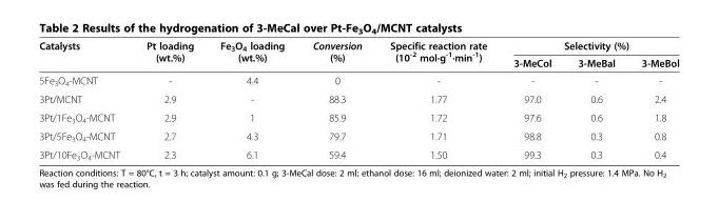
<table><thead><tr><td rowspan="2">Catalysts</td><td rowspan="2">Pt loading (wt.%)</td><td rowspan="2">Fe<sub>3</sub>O<sub>4</sub> loading (wt.%)</td><td rowspan="2">Conversion (%)</td><td rowspan="2">Specific reaction rate (10<sup>-2</sup> mol·g<sup>-1</sup>·min<sup>-1</sup>)</td><td colspan="3">Selectivity (%)</td></tr><tr><td>3-MeCol</td><td>3-MeBal</td><td>3-MeBol</td></tr></thead><tbody><tr><td>5Fe<sub>3</sub>O<sub>4</sub>-MCNT</td><td>-</td><td>4.4</td><td>0</td><td>-</td><td>-</td><td>-</td><td>-</td></tr><tr><td>3Pt/MCNT</td><td>2.9</td><td>-</td><td>88.3</td><td>1.77</td><td>97.0</td><td>0.6</td><td>2.4</td></tr><tr><td>3Pt/1Fe<sub>3</sub>O<sub>4</sub>-MCNT</td><td>2.9</td><td>1</td><td>85.9</td><td>1.72</td><td>97.6</td><td>0.6</td><td>1.8</td></tr><tr><td>3Pt/5Fe<sub>3</sub>O<sub>4</sub>-MCNT</td><td>2.7</td><td>4.3</td><td>79.7</td><td>1.71</td><td>98.8</td><td>0.3</td><td>0.8</td></tr><tr><td>3Pt/10Fe<sub>3</sub>O<sub>4</sub>-MCNT</td><td>2.3</td><td>6.1</td><td>59.4</td><td>1.50</td><td>99.3</td><td>0.3</td><td>0.4</td></tr></tbody></table>